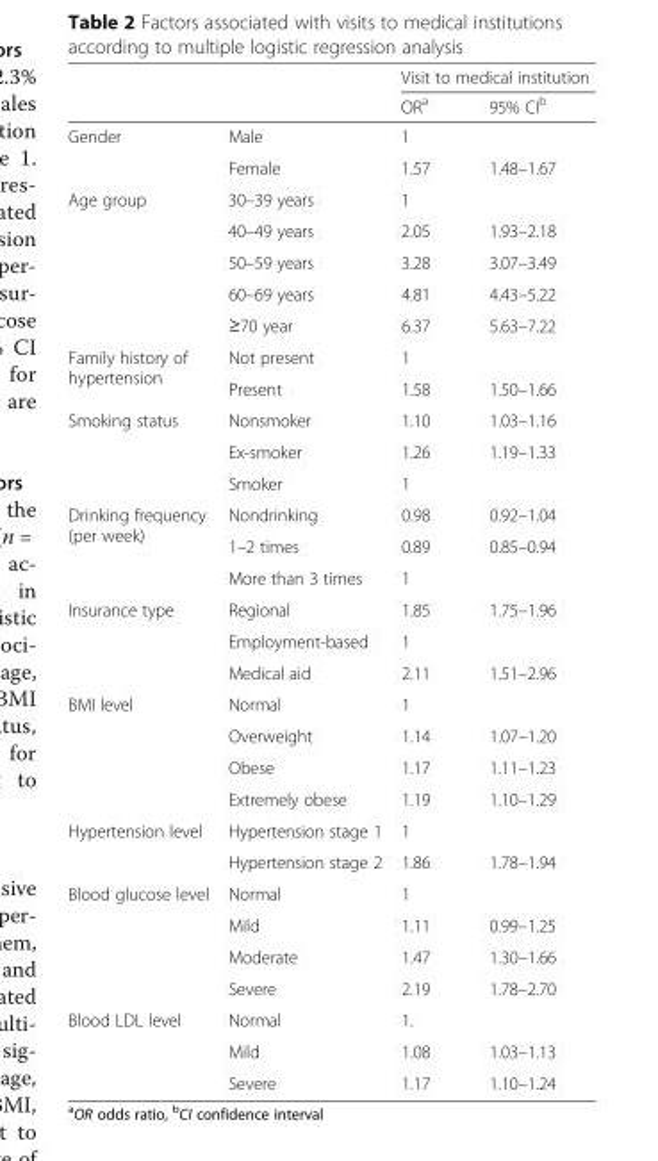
<table><thead><tr><td rowspan="2"></td><td rowspan="2"></td><td colspan="2">Visit to medical institution</td></tr><tr><td>OR<sup>a</sup></td><td>95% CI<sup>b</sup></td></tr></thead><tbody><tr><td rowspan="2">Gender</td><td>Male</td><td>1</td><td></td></tr><tr><td>Female</td><td>1.57</td><td>1.48–1.67</td></tr><tr><td rowspan="5">Age group</td><td>30–39 years</td><td>1</td><td></td></tr><tr><td>40–49 years</td><td>2.05</td><td>1.93–2.18</td></tr><tr><td>50–59 years</td><td>3.28</td><td>3.07–3.49</td></tr><tr><td>60–69 years</td><td>4.81</td><td>4.43–5.22</td></tr><tr><td>≥70 year</td><td>6.37</td><td>5.63–7.22</td></tr><tr><td rowspan="2">Family history of hypertension</td><td>Not present</td><td>1</td><td></td></tr><tr><td>Present</td><td>1.58</td><td>1.50–1.66</td></tr><tr><td rowspan="3">Smoking status</td><td>Nonsmoker</td><td>1.10</td><td>1.03–1.16</td></tr><tr><td>Ex-smoker</td><td>1.26</td><td>1.19–1.33</td></tr><tr><td>Smoker</td><td>1</td><td></td></tr><tr><td rowspan="3">Drinking frequency (per week)</td><td>Nondrinking</td><td>0.98</td><td>0.92–1.04</td></tr><tr><td>1–2 times</td><td>0.89</td><td>0.85–0.94</td></tr><tr><td>More than 3 times</td><td>1</td><td></td></tr><tr><td rowspan="3">Insurance type</td><td>Regional</td><td>1.85</td><td>1.75–1.96</td></tr><tr><td>Employment-based</td><td>1</td><td></td></tr><tr><td>Medical aid</td><td>2.11</td><td>1.51–2.96</td></tr><tr><td rowspan="4">BMI level</td><td>Normal</td><td>1</td><td></td></tr><tr><td>Overweight</td><td>1.14</td><td>1.07–1.20</td></tr><tr><td>Obese</td><td>1.17</td><td>1.11–1.23</td></tr><tr><td>Extremely obese</td><td>1.19</td><td>1.10–1.29</td></tr><tr><td rowspan="2">Hypertension level</td><td>Hypertension stage 1</td><td>1</td><td></td></tr><tr><td>Hypertension stage 2</td><td>1.86</td><td>1.78–1.94</td></tr><tr><td rowspan="4">Blood glucose level</td><td>Normal</td><td>1</td><td></td></tr><tr><td>Mild</td><td>1.11</td><td>0.99–1.25</td></tr><tr><td>Moderate</td><td>1.47</td><td>1.30–1.66</td></tr><tr><td>Severe</td><td>2.19</td><td>1.78–2.70</td></tr><tr><td rowspan="3">Blood LDL level</td><td>Normal</td><td>1.</td><td></td></tr><tr><td>Mild</td><td>1.08</td><td>1.03–1.13</td></tr><tr><td>Severe</td><td>1.17</td><td>1.10–1.24</td></tr></tbody></table>